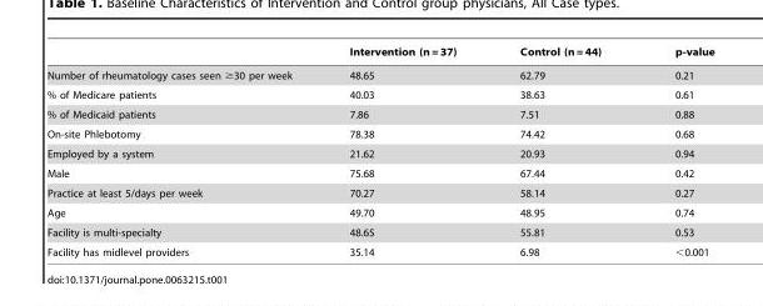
<table><thead><tr><td></td><td>Intervention (n = 37)</td><td>Control (n = 44)</td><td>p-value</td></tr></thead><tbody><tr><td>Number of rheumatology cases seen ≥30 per week</td><td>48.65</td><td>62.79</td><td>0.21</td></tr><tr><td>% of Medicare patients</td><td>40.03</td><td>38.63</td><td>0.61</td></tr><tr><td>% of Medicaid patients</td><td>7.86</td><td>7.51</td><td>0.88</td></tr><tr><td>On-site Phlebotomy</td><td>78.38</td><td>74.42</td><td>0.68</td></tr><tr><td>Employed by a system</td><td>21.62</td><td>20.93</td><td>0.94</td></tr><tr><td>Male</td><td>75.68</td><td>67.44</td><td>0.42</td></tr><tr><td>Practice at least 5/days per week</td><td>70.27</td><td>58.14</td><td>0.27</td></tr><tr><td>Age</td><td>49.70</td><td>48.95</td><td>0.74</td></tr><tr><td>Facility is multi-specialty</td><td>48.65</td><td>55.81</td><td>0.53</td></tr><tr><td>Facility has midlevel providers</td><td>35.14</td><td>6.98</td><td>&lt;0.001</td></tr></tbody></table>